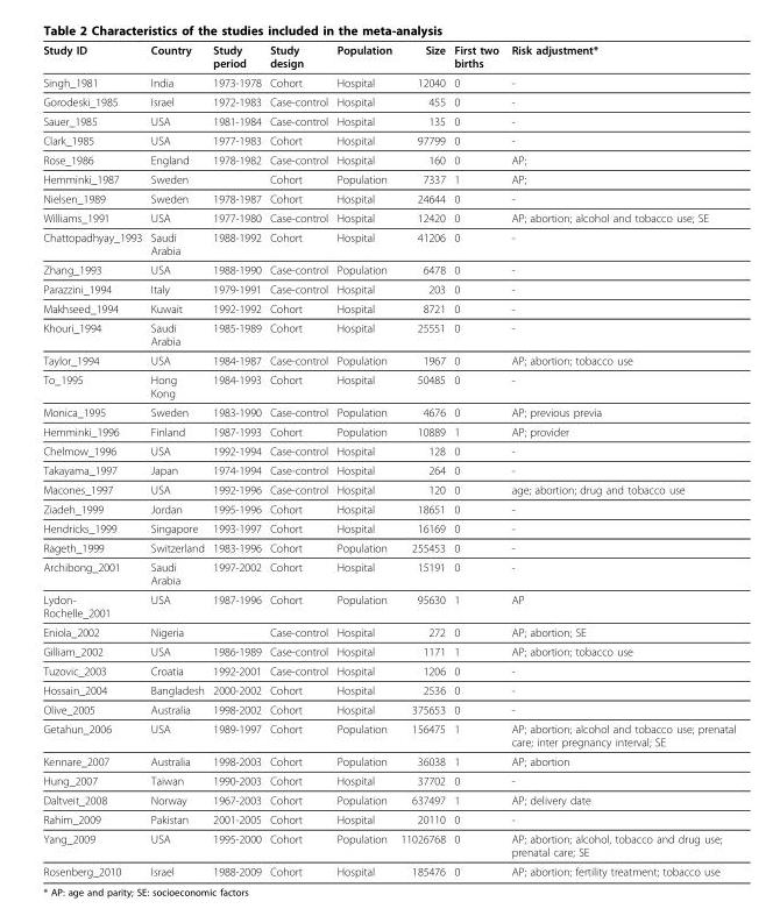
<table><thead><tr><td>Study ID</td><td>Country</td><td>Study period</td><td>Study design</td><td>Population</td><td>Size</td><td>First two births</td><td>Risk adjustment*</td></tr></thead><tbody><tr><td>Singh_1981</td><td>India</td><td>1973-1978</td><td>Cohort</td><td>Hospital</td><td>12040</td><td>0</td><td>-</td></tr><tr><td>Gorodeski_1985</td><td>Israel</td><td>1972-1983</td><td>Case-control</td><td>Hospital</td><td>455</td><td>0</td><td>-</td></tr><tr><td>Sauer_1985</td><td>USA</td><td>1981-1984</td><td>Case-control</td><td>Hospital</td><td>135</td><td>0</td><td>-</td></tr><tr><td>Clark_1985</td><td>USA</td><td>1977-1983</td><td>Cohort</td><td>Hospital</td><td>97799</td><td>0</td><td>-</td></tr><tr><td>Rose_1986</td><td>England</td><td>1978-1982</td><td>Case-control</td><td>Hospital</td><td>160</td><td>0</td><td>AP;</td></tr><tr><td>Hemminki_1987</td><td>Sweden</td><td></td><td>Cohort</td><td>Population</td><td>7337</td><td>1</td><td>AP;</td></tr><tr><td>Nielsen_1989</td><td>Sweden</td><td>1978-1987</td><td>Cohort</td><td>Hospital</td><td>24644</td><td>0</td><td>-</td></tr><tr><td>Williams_1991</td><td>USA</td><td>1977-1980</td><td>Case-control</td><td>Hospital</td><td>12420</td><td>0</td><td>AP; abortion; alcohol and tobacco use; SE</td></tr><tr><td>Chattopadhyay_1993</td><td>Saudi Arabia</td><td>1988-1992</td><td>Cohort</td><td>Hospital</td><td>41206</td><td>0</td><td>-</td></tr><tr><td>Zhang_1993</td><td>USA</td><td>1988-1990</td><td>Case-control</td><td>Population</td><td>6478</td><td>0</td><td>-</td></tr><tr><td>Parazzini_1994</td><td>Italy</td><td>1979-1991</td><td>Case-control</td><td>Hospital</td><td>203</td><td>0</td><td>-</td></tr><tr><td>Makhseed_1994</td><td>Kuwait</td><td>1992-1992</td><td>Cohort</td><td>Hospital</td><td>8721</td><td>0</td><td>-</td></tr><tr><td>Khouri_1994</td><td>Saudi Arabia</td><td>1985-1989</td><td>Cohort</td><td>Hospital</td><td>25551</td><td>0</td><td>-</td></tr><tr><td>Taylor_1994</td><td>USA</td><td>1984-1987</td><td>Case-control</td><td>Population</td><td>1967</td><td>0</td><td>AP; abortion; tobacco use</td></tr><tr><td>To_1995</td><td>Hong Kong</td><td>1984-1993</td><td>Cohort</td><td>Hospital</td><td>50485</td><td>0</td><td>-</td></tr><tr><td>Monica_1995</td><td>Sweden</td><td>1983-1990</td><td>Case-control</td><td>Population</td><td>4676</td><td>0</td><td>AP; previous previa</td></tr><tr><td>Hemminki_1996</td><td>Finland</td><td>1987-1993</td><td>Cohort</td><td>Population</td><td>10889</td><td>1</td><td>AP; provider</td></tr><tr><td>Chelmow_1996</td><td>USA</td><td>1992-1994</td><td>Case-control</td><td>Hospital</td><td>128</td><td>0</td><td>-</td></tr><tr><td>Takayama_1997</td><td>Japan</td><td>1974-1994</td><td>Case-control</td><td>Hospital</td><td>264</td><td>0</td><td>-</td></tr><tr><td>Macones_1997</td><td>USA</td><td>1992-1996</td><td>Case-control</td><td>Hospital</td><td>120</td><td>0</td><td>age; abortion; drug and tobacco use</td></tr><tr><td>Ziadeh_1999</td><td>Jordan</td><td>1995-1996</td><td>Cohort</td><td>Hospital</td><td>18651</td><td>0</td><td>-</td></tr><tr><td>Hendricks_1999</td><td>Singapore</td><td>1993-1997</td><td>Cohort</td><td>Hospital</td><td>16169</td><td>0</td><td>-</td></tr><tr><td>Rageth_1999</td><td>Switzerland</td><td>1983-1996</td><td>Cohort</td><td>Population</td><td>255453</td><td>0</td><td>-</td></tr><tr><td>Archibong_2001</td><td>Saudi Arabia</td><td>1997-2002</td><td>Cohort</td><td>Hospital</td><td>15191</td><td>0</td><td>-</td></tr><tr><td>Lydon- Rochelle_2001</td><td>USA</td><td>1987-1996</td><td>Cohort</td><td>Population</td><td>95630</td><td>1</td><td>AP</td></tr><tr><td>Eniola_2002</td><td>Nigeria</td><td></td><td>Case-control</td><td>Hospital</td><td>272</td><td>0</td><td>AP; abortion; SE</td></tr><tr><td>Gilliam_2002</td><td>USA</td><td>1986-1989</td><td>Case-control</td><td>Hospital</td><td>1171</td><td>1</td><td>AP; abortion; tobacco use</td></tr><tr><td>Tuzovic_2003</td><td>Croatia</td><td>1992-2001</td><td>Case-control</td><td>Hospital</td><td>1206</td><td>0</td><td>-</td></tr><tr><td>Hossain_2004</td><td>Bangladesh</td><td>2000-2002</td><td>Cohort</td><td>Hospital</td><td>2536</td><td>0</td><td>-</td></tr><tr><td>Olive_2005</td><td>Australia</td><td>1998-2002</td><td>Cohort</td><td>Hospital</td><td>375653</td><td>0</td><td>-</td></tr><tr><td>Getahun_2006</td><td>USA</td><td>1989-1997</td><td>Cohort</td><td>Population</td><td>156475</td><td>1</td><td>AP; abortion; alcohol and tobacco use; prenatal care; inter pregnancy interval; SE</td></tr><tr><td>Kennare_2007</td><td>Australia</td><td>1998-2003</td><td>Cohort</td><td>Population</td><td>36038</td><td>1</td><td>AP; abortion</td></tr><tr><td>Hung_2007</td><td>Taiwan</td><td>1990-2003</td><td>Cohort</td><td>Hospital</td><td>37702</td><td>0</td><td>-</td></tr><tr><td>Daltveit_2008</td><td>Norway</td><td>1967-2003</td><td>Cohort</td><td>Population</td><td>637497</td><td>1</td><td>AP; delivery date</td></tr><tr><td>Rahim_2009</td><td>Pakistan</td><td>2001-2005</td><td>Cohort</td><td>Hospital</td><td>20110</td><td>0</td><td>-</td></tr><tr><td>Yang_2009</td><td>USA</td><td>1995-2000</td><td>Cohort</td><td>Population</td><td>11026768</td><td>0</td><td>AP; abortion; alcohol, tobacco and drug use; prenatal care; SE</td></tr><tr><td>Rosenberg_2010</td><td>Israel</td><td>1988-2009</td><td>Cohort</td><td>Hospital</td><td>185476</td><td>0</td><td>AP; abortion; fertility treatment; tobacco use</td></tr></tbody></table>